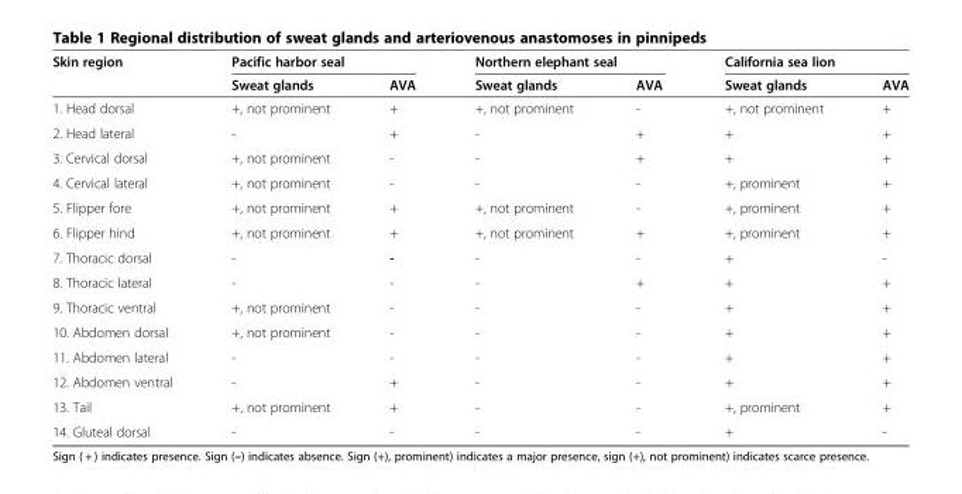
<table><thead><tr><td rowspan="2">Skin region</td><td colspan="2">Pacific harbor seal</td><td colspan="2">Northern elephant seal</td><td colspan="2">California sea lion</td></tr><tr><td>Sweat glands</td><td>AVA</td><td>Sweat glands</td><td>AVA</td><td>Sweat glands</td><td>AVA</td></tr></thead><tbody><tr><td>1. Head dorsal</td><td>+, not prominent</td><td>+</td><td>+, not prominent</td><td>-</td><td>+, not prominent</td><td>+</td></tr><tr><td>2. Head lateral</td><td>-</td><td>+</td><td>-</td><td>+</td><td>+</td><td>+</td></tr><tr><td>3. Cervical dorsal</td><td>+, not prominent</td><td>-</td><td>-</td><td>+</td><td>+</td><td>+</td></tr><tr><td>4. Cervical lateral</td><td>+, not prominent</td><td>-</td><td>-</td><td>-</td><td>+, prominent</td><td>+</td></tr><tr><td>5. Flipper fore</td><td>+, not prominent</td><td>+</td><td>+, not prominent</td><td>-</td><td>+, prominent</td><td>+</td></tr><tr><td>6. Flipper hind</td><td>+, not prominent</td><td>+</td><td>+, not prominent</td><td>+</td><td>+, prominent</td><td>+</td></tr><tr><td>7. Thoracic dorsal</td><td>-</td><td>-</td><td>-</td><td>-</td><td>+</td><td>-</td></tr><tr><td>8. Thoracic lateral</td><td>-</td><td>-</td><td>-</td><td>+</td><td>+</td><td>+</td></tr><tr><td>9. Thoracic ventral</td><td>+, not prominent</td><td>-</td><td>-</td><td>-</td><td>+</td><td>+</td></tr><tr><td>10. Abdomen dorsal</td><td>+, not prominent</td><td>-</td><td>-</td><td>-</td><td>+</td><td>+</td></tr><tr><td>11. Abdomen lateral</td><td>-</td><td>-</td><td>-</td><td>-</td><td>+</td><td>+</td></tr><tr><td>12. Abdomen ventral</td><td>-</td><td>+</td><td>-</td><td>-</td><td>+</td><td>+</td></tr><tr><td>13. Tail</td><td>+, not prominent</td><td>+</td><td>-</td><td>-</td><td>+, prominent</td><td>+</td></tr><tr><td>14. Gluteal dorsal</td><td>-</td><td>-</td><td>-</td><td>-</td><td>+</td><td>-</td></tr></tbody></table>